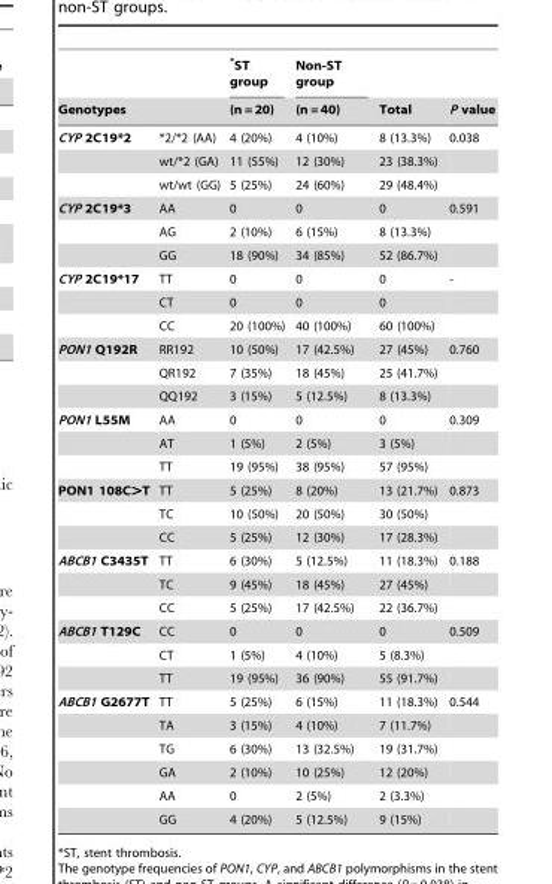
<table><thead><tr><td></td><td></td><td rowspan="2">*ST group (n = 20)</td><td rowspan="2">Non-ST group (n = 40)</td><td rowspan="2">Total</td><td rowspan="2">P value</td></tr><tr><td colspan="2">Genotypes</td></tr></thead><tbody><tr><td rowspan="3">CYP 2C19*2</td><td>*2/*2 (AA)</td><td>4 (20%)</td><td>4 (10%)</td><td>8 (13.3%)</td><td>0.038</td></tr><tr><td>wt/*2 (GA)</td><td>11 (55%)</td><td>12 (30%)</td><td>23 (38.3%)</td><td></td></tr><tr><td>wt/wt (GG)</td><td>5 (25%)</td><td>24 (60%)</td><td>29 (48.4%)</td><td></td></tr><tr><td rowspan="3">CYP 2C19*3</td><td>AA</td><td>0</td><td>0</td><td>0</td><td>0.591</td></tr><tr><td>AG</td><td>2 (10%)</td><td>6 (15%)</td><td>8 (13.3%)</td><td></td></tr><tr><td>GG</td><td>18 (90%)</td><td>34 (85%)</td><td>52 (86.7%)</td><td></td></tr><tr><td rowspan="3">CYP 2C19*17</td><td>TT</td><td>0</td><td>0</td><td>0</td><td>-</td></tr><tr><td>CT</td><td>0</td><td>0</td><td>0</td><td></td></tr><tr><td>CC</td><td>20 (100%)</td><td>40 (100%)</td><td>60 (100%)</td><td></td></tr><tr><td rowspan="3">PON1 Q192R</td><td>RR192</td><td>10 (50%)</td><td>17 (42.5%)</td><td>27 (45%)</td><td>0.760</td></tr><tr><td>QR192</td><td>7 (35%)</td><td>18 (45%)</td><td>25 (41.7%)</td><td></td></tr><tr><td>QQ192</td><td>3 (15%)</td><td>5 (12.5%)</td><td>8 (13.3%)</td><td></td></tr><tr><td rowspan="3">PON1 L55M</td><td>AA</td><td>0</td><td>0</td><td>0</td><td>0.309</td></tr><tr><td>AT</td><td>1 (5%)</td><td>2 (5%)</td><td>3 (5%)</td><td></td></tr><tr><td>TT</td><td>19 (95%)</td><td>38 (95%)</td><td>57 (95%)</td><td></td></tr><tr><td rowspan="3">PON1 108C&gt;T</td><td>TT</td><td>5 (25%)</td><td>8 (20%)</td><td>13 (21.7%)</td><td>0.873</td></tr><tr><td>TC</td><td>10 (50%)</td><td>20 (50%)</td><td>30 (50%)</td><td></td></tr><tr><td>CC</td><td>5 (25%)</td><td>12 (30%)</td><td>17 (28.3%)</td><td></td></tr><tr><td rowspan="3">ABCB1 C3435T</td><td>TT</td><td>6 (30%)</td><td>5 (12.5%)</td><td>11 (18.3%)</td><td>0.188</td></tr><tr><td>TC</td><td>9 (45%)</td><td>18 (45%)</td><td>27 (45%)</td><td></td></tr><tr><td>CC</td><td>5 (25%)</td><td>17 (42.5%)</td><td>22 (36.7%)</td><td></td></tr><tr><td rowspan="3">ABCB1 T129C</td><td>CC</td><td>0</td><td>0</td><td>0</td><td>0.509</td></tr><tr><td>CT</td><td>1 (5%)</td><td>4 (10%)</td><td>5 (8.3%)</td><td></td></tr><tr><td>TT</td><td>19 (95%)</td><td>36 (90%)</td><td>55 (91.7%)</td><td></td></tr><tr><td rowspan="6">ABCB1 G2677T</td><td>TT</td><td>5 (25%)</td><td>6 (15%)</td><td>11 (18.3%)</td><td>0.544</td></tr><tr><td>TA</td><td>3 (15%)</td><td>4 (10%)</td><td>7 (11.7%)</td><td></td></tr><tr><td>TG</td><td>6 (30%)</td><td>13 (32.5%)</td><td>19 (31.7%)</td><td></td></tr><tr><td>GA</td><td>2 (10%)</td><td>10 (25%)</td><td>12 (20%)</td><td></td></tr><tr><td>AA</td><td>0</td><td>2 (5%)</td><td>2 (3.3%)</td><td></td></tr><tr><td>GG</td><td>4 (20%)</td><td>5 (12.5%)</td><td>9 (15%)</td><td></td></tr></tbody></table>